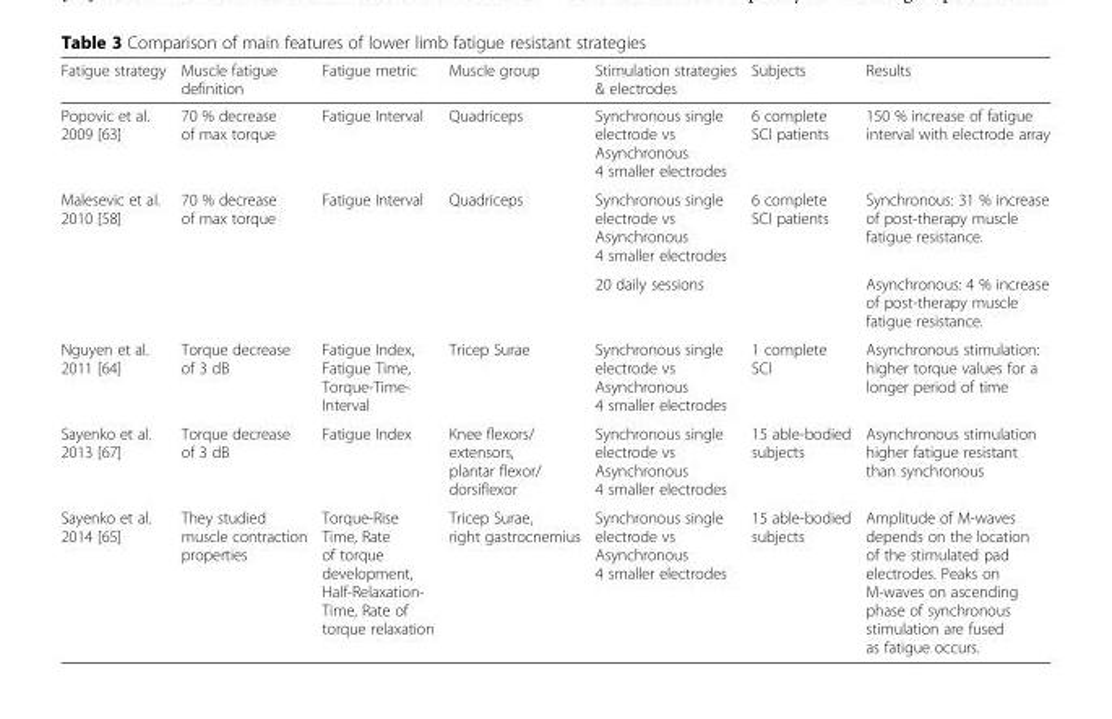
<table><thead><tr><td>Fatigue strategy</td><td>Muscle fatigue definition</td><td>Fatigue metric</td><td>Muscle group</td><td>Stimulation strategies &amp; electrodes</td><td>Subjects</td><td>Results</td></tr></thead><tbody><tr><td>Popovic et al. 2009 [63]</td><td>70 % decrease of max torque</td><td>Fatigue Interval</td><td>Quadriceps</td><td>Synchronous single electrode vs Asynchronous 4 smaller electrodes</td><td>6 complete SCI patients</td><td>150 % increase of fatigue interval with electrode array</td></tr><tr><td rowspan="2">Malesevic et al. 2010 [58]</td><td rowspan="2">70 % decrease of max torque</td><td rowspan="2">Fatigue Interval</td><td rowspan="2">Quadriceps</td><td>Synchronous single electrode vs Asynchronous 4 smaller electrodes</td><td rowspan="2">6 complete SCI patients</td><td>Synchronous: 31 % increase of post-therapy muscle fatigue resistance.</td></tr><tr><td>20 daily sessions</td><td>Asynchronous: 4 % increase of post-therapy muscle fatigue resistance.</td></tr><tr><td>Nguyen et al. 2011 [64]</td><td>Torque decrease of 3 dB</td><td>Fatigue Index, Fatigue Time, Torque-Time- Interval</td><td>Tricep Surae</td><td>Synchronous single electrode vs Asynchronous 4 smaller electrodes</td><td>1 complete SCI</td><td>Asynchronous stimulation: higher torque values for a longer period of time</td></tr><tr><td>Sayenko et al. 2013 [67]</td><td>Torque decrease of 3 dB</td><td>Fatigue Index</td><td>Knee flexors/ extensors, plantar flexor/ dorsiflexor</td><td>Synchronous single electrode vs Asynchronous 4 smaller electrodes</td><td>15 able-bodied subjects</td><td>Asynchronous stimulation higher fatigue resistant than synchronous</td></tr><tr><td>Sayenko et al. 2014 [65]</td><td>They studied muscle contraction properties</td><td>Torque-Rise Time, Rate of torque development, Half-Relaxation- Time, Rate of torque relaxation</td><td>Tricep Surae, right gastrocnemius</td><td>Synchronous single electrode vs Asynchronous 4 smaller electrodes</td><td>15 able-bodied subjects</td><td>Amplitude of M-waves depends on the location of the stimulated pad electrodes. Peaks on M-waves on ascending phase of synchronous stimulation are fused as fatigue occurs.</td></tr></tbody></table>